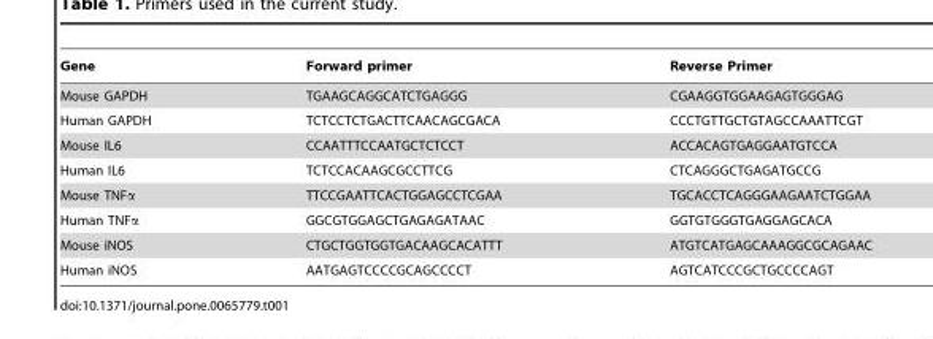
<table><thead><tr><td>Gene</td><td>Forward primer</td><td>Reverse Primer</td></tr></thead><tbody><tr><td>Mouse GAPDH</td><td>TGAAGCAGGCATCTGAGGG</td><td>CGAAGGTGGAAGAGTGGGAG</td></tr><tr><td>Human GAPDH</td><td>TCTCCTCTGACTTCAACAGCGACA</td><td>CCCTGTTGCTGTAGCCAAATTCGT</td></tr><tr><td>Mouse IL6</td><td>CCAATTTCCAATGCTCTCCT</td><td>ACCACAGTGAGGAATGTCCA</td></tr><tr><td>Human IL6</td><td>TCTCCACAAGCGCCTTCG</td><td>CTCAGGGCTGAGATGCCG</td></tr><tr><td>Mouse TNFα</td><td>TTCCGAATTCACTGGAGCCTCGAA</td><td>TGCACCTCAGGGAAGAATCTGGAA</td></tr><tr><td>Human TNFα</td><td>GGCGTGGAGCTGAGAGATAAC</td><td>GGTGTGGGTGAGGAGCACA</td></tr><tr><td>Mouse iNOS</td><td>CTGCTGGTGGTGACAAGCACATTT</td><td>ATGTCATGAGCAAAGGCGCAGAAC</td></tr><tr><td>Human iNOS</td><td>AATGAGTCCCCGCAGCCCCT</td><td>AGTCATCCCGCTGCCCCAGT</td></tr></tbody></table>